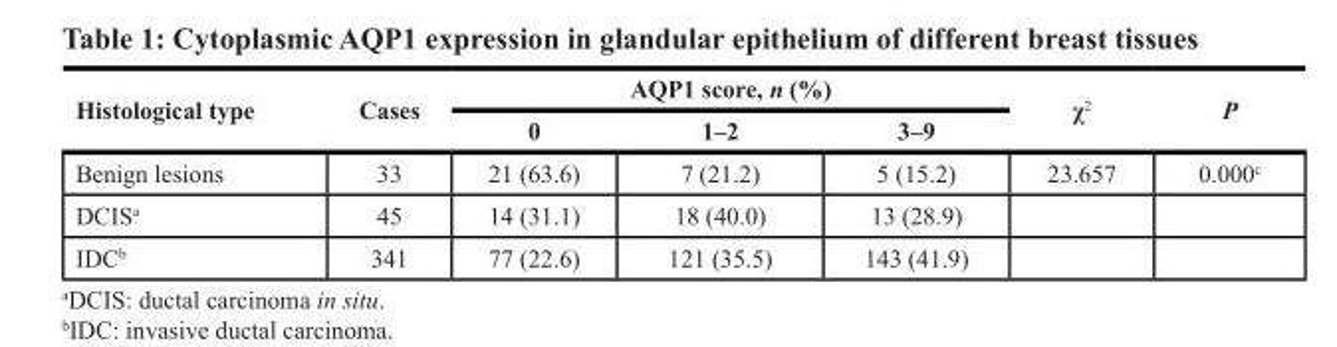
<table><thead><tr><td rowspan="2">Histological type</td><td rowspan="2">Cases</td><td colspan="3">AQP1 score, n (%)</td><td rowspan="2">χ<sup>2</sup></td><td rowspan="2">P</td></tr><tr><td>0</td><td>1–2</td><td>3–9</td></tr></thead><tbody><tr><td>Benign lesions</td><td>33</td><td>21 (63.6)</td><td>7 (21.2)</td><td>5 (15.2)</td><td>23.657</td><td>0.000<sup>c</sup></td></tr><tr><td>DCIS<sup>a</sup></td><td>45</td><td>14 (31.1)</td><td>18 (40.0)</td><td>13 (28.9)</td><td></td><td></td></tr><tr><td>IDC<sup>b</sup></td><td>341</td><td>77 (22.6)</td><td>121 (35.5)</td><td>143 (41.9)</td><td></td><td></td></tr></tbody></table>